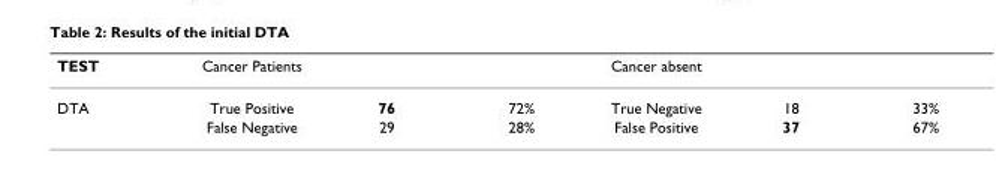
<table><thead><tr><td>TEST</td><td>Cancer Patients</td><td></td><td></td><td>Cancer absent</td><td></td><td></td></tr></thead><tbody><tr><td rowspan="2">DTA</td><td>True Positive</td><td>76</td><td>72%</td><td>True Negative</td><td>18</td><td>33%</td></tr><tr><td>False Negative</td><td>29</td><td>28%</td><td>False Positive</td><td>37</td><td>67%</td></tr></tbody></table>